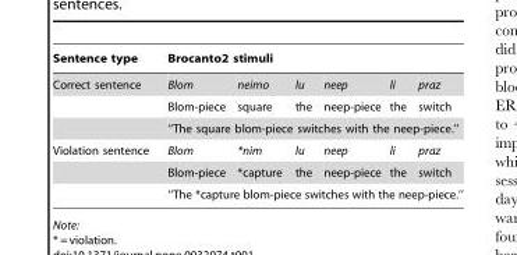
<table><thead><tr><td rowspan="2">Sentence type Correct sentence</td><td colspan="6">Brocanto2 stimuli</td></tr><tr><td>Blom</td><td>neimo</td><td>lu</td><td>neep</td><td>li</td><td>praz</td></tr></thead><tbody><tr><td></td><td>Blom-piece</td><td>square</td><td>the</td><td>neep-piece</td><td>the</td><td>switch</td></tr><tr><td></td><td colspan="6">‘‘The square blom-piece switches with the neep-piece.’’</td></tr><tr><td rowspan="3">Violation sentence</td><td>Blom</td><td>*nim</td><td>lu</td><td>neep</td><td>li</td><td>praz</td></tr><tr><td>Blom-piece</td><td>*capture</td><td>the</td><td>neep-piece</td><td>the</td><td>switch</td></tr><tr><td colspan="6">‘‘The *capture blom-piece switches with the neep-piece.’’</td></tr></tbody></table>